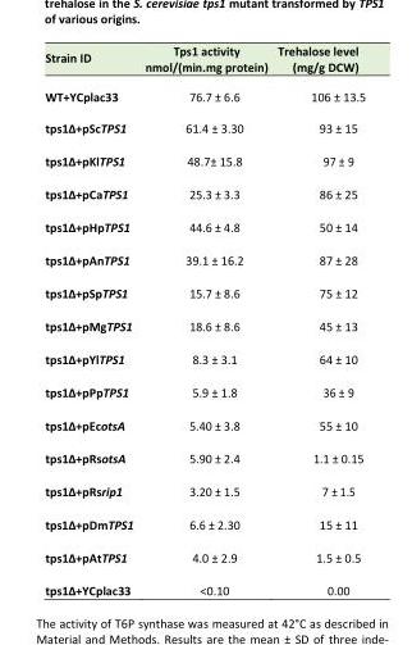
<table><thead><tr><td>Strain ID</td><td>Tps1 activity nmol/(min.mg protein)</td><td>Trehalose level (mg/g DCW)</td></tr></thead><tbody><tr><td>WT+YCplac33</td><td>76.7 ± 6.6</td><td>106 ± 13.5</td></tr><tr><td>tps1Δ+pScTPS1</td><td>61.4 ± 3.30</td><td>93 ± 15</td></tr><tr><td>tps1Δ+pKlTPS1</td><td>48.7± 15.8</td><td>97 ± 9</td></tr><tr><td>tps1Δ+pCaTPS1</td><td>25.3 ± 3.3</td><td>86 ± 25</td></tr><tr><td>tps1Δ+pHpTPS1</td><td>44.6 ± 4.8</td><td>50 ± 14</td></tr><tr><td>tps1Δ+pAnTPS1</td><td>39.1 ± 16.2</td><td>87 ± 28</td></tr><tr><td>tps1Δ+pSpTPS1</td><td>15.7 ± 8.6</td><td>75 ± 12</td></tr><tr><td>tps1Δ+pMgTPS1</td><td>18.6 ± 8.6</td><td>45 ± 13</td></tr><tr><td>tps1Δ+pYlTPS1</td><td>8.3 ± 3.1</td><td>64 ± 10</td></tr><tr><td>tps1Δ+pPpTPS1</td><td>5.9 ± 1.8</td><td>36 ± 9</td></tr><tr><td>tps1Δ+pEcotsA</td><td>5.40 ± 3.8</td><td>55 ± 10</td></tr><tr><td>tps1Δ+pRsotsA</td><td>5.90 ± 2.4</td><td>1.1 ± 0.15</td></tr><tr><td>tps1Δ+pRsrip1</td><td>3.20 ± 1.5</td><td>7 ± 1.5</td></tr><tr><td>tps1Δ+pDmTPS1</td><td>6.6 ± 2.30</td><td>15 ± 11</td></tr><tr><td>tps1Δ+pAtTPS1</td><td>4.0 ± 2.9</td><td>1.5 ± 0.5</td></tr><tr><td>tps1Δ+YCplac33</td><td>&lt;0.10</td><td>0.00</td></tr></tbody></table>